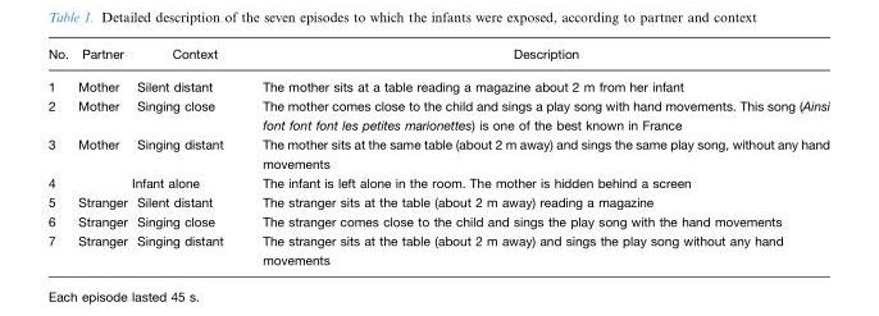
<table><thead><tr><td>No.</td><td>Partner</td><td>Context</td><td>Description</td></tr></thead><tbody><tr><td>1</td><td>Mother</td><td>Silent distant</td><td>The mother sits at a table reading a magazine about 2 m from her infant</td></tr><tr><td>2</td><td>Mother</td><td>Singing close</td><td>The mother comes close to the child and sings a play song with hand movements. This song (Ainsi font font font les petites marionettes) is one of the best known in France</td></tr><tr><td>3</td><td>Mother</td><td>Singing distant</td><td>The mother sits at the same table (about 2 m away) and sings the same play song, without any hand movements</td></tr><tr><td>4</td><td colspan="2">Infant alone</td><td>The infant is left alone in the room. The mother is hidden behind a screen</td></tr><tr><td>5</td><td>Stranger</td><td>Silent distant</td><td>The stranger sits at the table (about 2 m away) reading a magazine</td></tr><tr><td>6</td><td>Stranger</td><td>Singing close</td><td>The stranger comes close to the child and sings the play song with the hand movements</td></tr><tr><td>7</td><td>Stranger</td><td>Singing distant</td><td>The stranger sits at the table (about 2 m away) and sings the play song without any hand movements</td></tr></tbody></table>